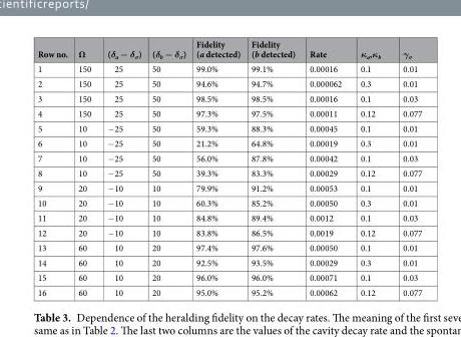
<table><thead><tr><td>Row no.</td><td>Ω</td><td>(δ<sub>a</sub> − δ<sub>σ</sub>)</td><td>(δ<sub>b</sub> − δ<sub>σ</sub>)</td><td>Fidelity (a detected)</td><td>Fidelity (b detected)</td><td>Rate</td><td>κ<sub>a</sub>,κ<sub>b</sub></td><td>γ<sub>σ</sub></td></tr></thead><tbody><tr><td>1</td><td>150</td><td>25</td><td>50</td><td>99.0%</td><td>99.1%</td><td>0.00016</td><td>0.1</td><td>0.01</td></tr><tr><td>2</td><td>150</td><td>25</td><td>50</td><td>94.6%</td><td>94.7%</td><td>0.000062</td><td>0.3</td><td>0.01</td></tr><tr><td>3</td><td>150</td><td>25</td><td>50</td><td>98.5%</td><td>98.5%</td><td>0.00016</td><td>0.1</td><td>0.03</td></tr><tr><td>4</td><td>150</td><td>25</td><td>50</td><td>97.3%</td><td>97.5%</td><td>0.00011</td><td>0.12</td><td>0.077</td></tr><tr><td>5</td><td>10</td><td>−25</td><td>50</td><td>59.3%</td><td>88.3%</td><td>0.00045</td><td>0.1</td><td>0.01</td></tr><tr><td>6</td><td>10</td><td>−25</td><td>50</td><td>21.2%</td><td>64.8%</td><td>0.00019</td><td>0.3</td><td>0.01</td></tr><tr><td>7</td><td>10</td><td>−25</td><td>50</td><td>56.0%</td><td>87.8%</td><td>0.00042</td><td>0.1</td><td>0.03</td></tr><tr><td>8</td><td>10</td><td>−25</td><td>50</td><td>39.3%</td><td>83.3%</td><td>0.00029</td><td>0.12</td><td>0.077</td></tr><tr><td>9</td><td>20</td><td>−10</td><td>10</td><td>79.9%</td><td>91.2%</td><td>0.00053</td><td>0.1</td><td>0.01</td></tr><tr><td>10</td><td>20</td><td>−10</td><td>10</td><td>60.3%</td><td>85.2%</td><td>0.00050</td><td>0.3</td><td>0.01</td></tr><tr><td>11</td><td>20</td><td>−10</td><td>10</td><td>84.8%</td><td>89.4%</td><td>0.0012</td><td>0.1</td><td>0.03</td></tr><tr><td>12</td><td>20</td><td>−10</td><td>10</td><td>83.8%</td><td>86.5%</td><td>0.0019</td><td>0.12</td><td>0.077</td></tr><tr><td>13</td><td>60</td><td>10</td><td>20</td><td>97.4%</td><td>97.6%</td><td>0.00050</td><td>0.1</td><td>0.01</td></tr><tr><td>14</td><td>60</td><td>10</td><td>20</td><td>92.5%</td><td>93.5%</td><td>0.00029</td><td>0.3</td><td>0.01</td></tr><tr><td>15</td><td>60</td><td>10</td><td>20</td><td>96.0%</td><td>96.0%</td><td>0.00071</td><td>0.1</td><td>0.03</td></tr><tr><td>16</td><td>60</td><td>10</td><td>20</td><td>95.0%</td><td>95.2%</td><td>0.00062</td><td>0.12</td><td>0.077</td></tr></tbody></table>